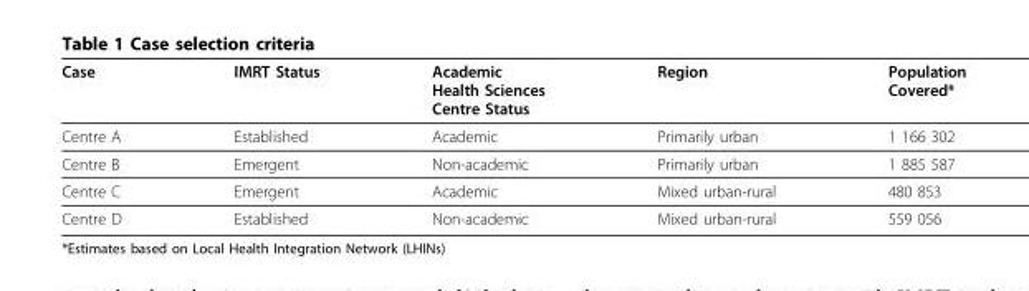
<table><thead><tr><td>Case</td><td>IMRT Status</td><td>Academic Health Sciences Centre Status</td><td>Region</td><td>Population Covered*</td></tr></thead><tbody><tr><td>Centre A</td><td>Established</td><td>Academic</td><td>Primarily urban</td><td>1 166 302</td></tr><tr><td>Centre B</td><td>Emergent</td><td>Non-academic</td><td>Primarily urban</td><td>1 885 587</td></tr><tr><td>Centre C</td><td>Emergent</td><td>Academic</td><td>Mixed urban-rural</td><td>480 853</td></tr><tr><td>Centre D</td><td>Established</td><td>Non-academic</td><td>Mixed urban-rural</td><td>559 056</td></tr></tbody></table>